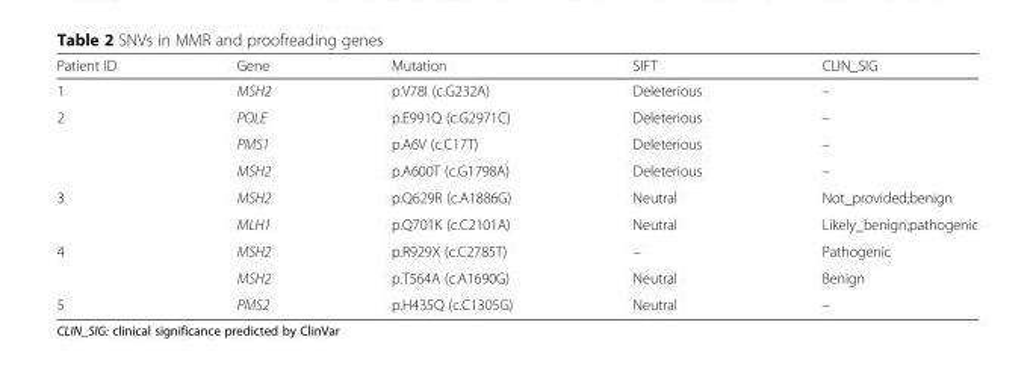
<table><thead><tr><td>Patient ID</td><td>Gene</td><td>Mutation</td><td>SIFT</td><td>CLIN_SIG</td></tr></thead><tbody><tr><td>1</td><td>MSH2</td><td>p.V78I (c.G232A)</td><td>Deleterious</td><td>–</td></tr><tr><td rowspan="3">2</td><td>POLE</td><td>p.E991Q (c.G2971C)</td><td>Deleterious</td><td>–</td></tr><tr><td>PMS1</td><td>p.A6V (c.C17T)</td><td>Deleterious</td><td>–</td></tr><tr><td>MSH2</td><td>p.A600T (c.G1798A)</td><td>Deleterious</td><td>–</td></tr><tr><td rowspan="2">3</td><td>MSH2</td><td>p.Q629R (c.A1886G)</td><td>Neutral</td><td>Not_provided;benign</td></tr><tr><td>MLH1</td><td>p.Q701K (c.C2101A)</td><td>Neutral</td><td>Likely_benign;pathogenic</td></tr><tr><td rowspan="2">4</td><td>MSH2</td><td>p.R929X (c.C2785T)</td><td>–</td><td>Pathogenic</td></tr><tr><td>MSH2</td><td>p.T564A (c.A1690G)</td><td>Neutral</td><td>Benign</td></tr><tr><td>5</td><td>PMS2</td><td>p.H435Q (c.C1305G)</td><td>Neutral</td><td>–</td></tr></tbody></table>